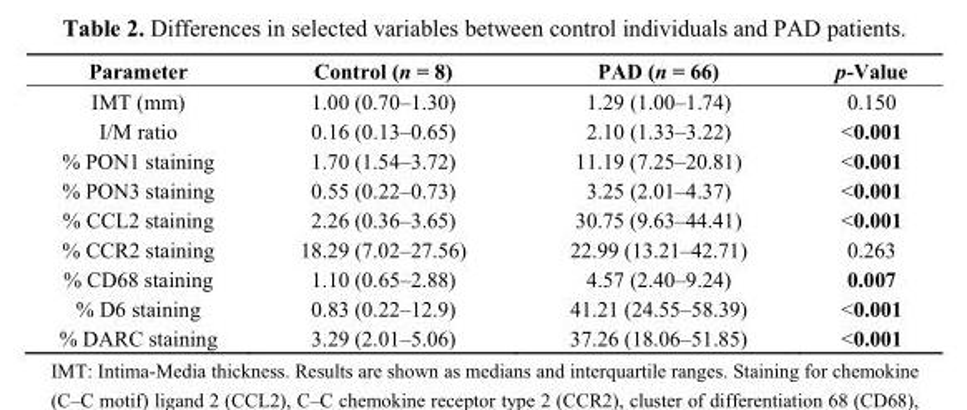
<table><thead><tr><td>Parameter</td><td>Control (n = 8)</td><td>PAD (n = 66)</td><td>p-Value</td></tr></thead><tbody><tr><td>IMT (mm)</td><td>1.00 (0.70–1.30)</td><td>1.29 (1.00–1.74)</td><td>0.150</td></tr><tr><td>I/M ratio</td><td>0.16 (0.13–0.65)</td><td>2.10 (1.33–3.22)</td><td>&lt;0.001</td></tr><tr><td>% PON1 staining</td><td>1.70 (1.54–3.72)</td><td>11.19 (7.25–20.81)</td><td>&lt;0.001</td></tr><tr><td>% PON3 staining</td><td>0.55 (0.22–0.73)</td><td>3.25 (2.01–4.37)</td><td>&lt;0.001</td></tr><tr><td>% CCL2 staining</td><td>2.26 (0.36–3.65)</td><td>30.75 (9.63–44.41)</td><td>&lt;0.001</td></tr><tr><td>% CCR2 staining</td><td>18.29 (7.02–27.56)</td><td>22.99 (13.21–42.71)</td><td>0.263</td></tr><tr><td>% CD68 staining</td><td>1.10 (0.65–2.88)</td><td>4.57 (2.40–9.24)</td><td>0.007</td></tr><tr><td>% D6 staining</td><td>0.83 (0.22–12.9)</td><td>41.21 (24.55–58.39)</td><td>&lt;0.001</td></tr><tr><td>% DARC staining</td><td>3.29 (2.01–5.06)</td><td>37.26 (18.06–51.85)</td><td>&lt;0.001</td></tr></tbody></table>